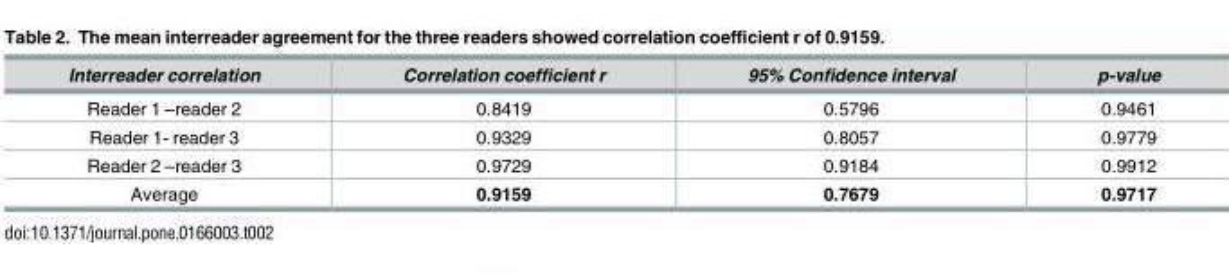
<table><thead><tr><td>Interreader correlation</td><td>Correlation coefficient r</td><td>95% Confidence interval</td><td>p-value</td></tr></thead><tbody><tr><td>Reader 1 –reader 2</td><td>0.8419</td><td>0.5796</td><td>0.9461</td></tr><tr><td>Reader 1- reader 3</td><td>0.9329</td><td>0.8057</td><td>0.9779</td></tr><tr><td>Reader 2 –reader 3</td><td>0.9729</td><td>0.9184</td><td>0.9912</td></tr><tr><td>Average</td><td>0.9159</td><td>0.7679</td><td>0.9717</td></tr></tbody></table>